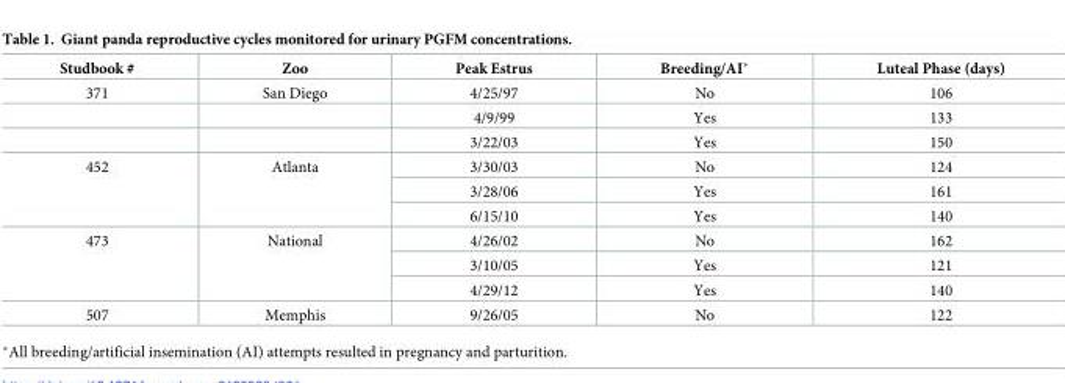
<table><thead><tr><td>Studbook #</td><td>Zoo</td><td>Peak Estrus</td><td>Breeding/AI*</td><td>Luteal Phase (days)</td></tr></thead><tbody><tr><td rowspan="3">371</td><td>San Diego</td><td>4/25/97</td><td>No</td><td>106</td></tr><tr><td></td><td>4/9/99</td><td>Yes</td><td>133</td></tr><tr><td></td><td>3/22/03</td><td>Yes</td><td>150</td></tr><tr><td rowspan="3">452</td><td rowspan="3">Atlanta</td><td>3/30/03</td><td>No</td><td>124</td></tr><tr><td>3/28/06</td><td>Yes</td><td>161</td></tr><tr><td>6/15/10</td><td>Yes</td><td>140</td></tr><tr><td rowspan="3">473</td><td rowspan="3">National</td><td>4/26/02</td><td>No</td><td>162</td></tr><tr><td>3/10/05</td><td>Yes</td><td>121</td></tr><tr><td>4/29/12</td><td>Yes</td><td>140</td></tr><tr><td>507</td><td>Memphis</td><td>9/26/05</td><td>No</td><td>122</td></tr></tbody></table>